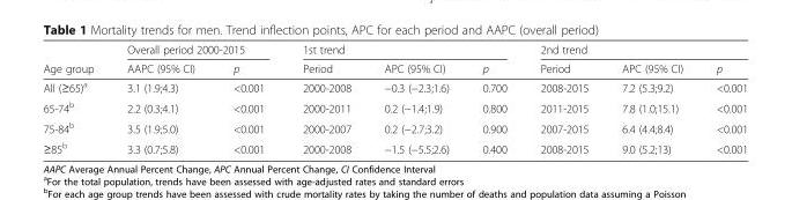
<table><thead><tr><td rowspan="2">Age group</td><td colspan="2">Overall period 2000-2015</td><td colspan="3">1st trend</td><td colspan="3">2nd trend</td></tr><tr><td>AAPC (95% CI)</td><td>p</td><td>Period</td><td>APC (95% CI)</td><td>p</td><td>Period</td><td>APC (95% CI)</td><td>p</td></tr></thead><tbody><tr><td>All (≥65)<sup>a</sup></td><td>3.1 (1.9;4.3)</td><td>&lt;0.001</td><td>2000-2008</td><td>−0.3 (−2.3;1.6)</td><td>0.700</td><td>2008-2015</td><td>7.2 (5.3;9.2)</td><td>&lt;0.001</td></tr><tr><td>65-74<sup>b</sup></td><td>2.2 (0.3;4.1)</td><td>&lt;0.001</td><td>2000-2011</td><td>0.2 (−1.4;1.9)</td><td>0.800</td><td>2011-2015</td><td>7.8 (1.0;15.1)</td><td>&lt;0.001</td></tr><tr><td>75-84<sup>b</sup></td><td>3.5 (1.9;5.0)</td><td>&lt;0.001</td><td>2000-2007</td><td>0.2 (−2.7;3.2)</td><td>0.900</td><td>2007-2015</td><td>6.4 (4.4;8.4)</td><td>&lt;0.001</td></tr><tr><td>≥85<sup>b</sup></td><td>3.3 (0.7;5.8)</td><td>&lt;0.001</td><td>2000-2008</td><td>−1.5 (−5.5;2.6)</td><td>0.400</td><td>2008-2015</td><td>9.0 (5.2;13)</td><td>&lt;0.001</td></tr></tbody></table>